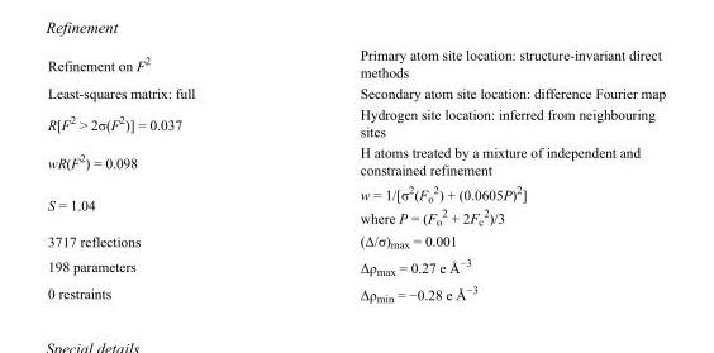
<table><tbody><tr><td>Refinement on F<sup>2</sup></td><td>Primary atom site location: structure-invariant direct methods</td></tr><tr><td>Least-squares matrix: full</td><td>Secondary atom site location: difference Fourier map</td></tr><tr><td>R[F<sup>2</sup> &gt; 2σ(F<sup>2</sup>)] = 0.037</td><td>Hydrogen site location: inferred from neighbouring sites</td></tr><tr><td>wR(F<sup>2</sup>) = 0.098</td><td>H atoms treated by a mixture of independent and constrained refinement</td></tr><tr><td>S = 1.04</td><td>w = 1/[σ<sup>2</sup>(F<sub>o</sub> <sup>2</sup>) + (0.0605P)<sup>2</sup>] where P = (F<sub>o</sub> <sup>2</sup> + 2F<sub>c</sub> <sup>2</sup>)/3</td></tr><tr><td>3717 reflections</td><td>(Δ/σ)<sub>max</sub> = 0.001</td></tr><tr><td>198 parameters</td><td>Δρ<sub>max</sub> = 0.27 e Å<sup>−3</sup></td></tr><tr><td>0 restraints</td><td>Δρ<sub>min</sub> = −0.28 e Å<sup>−3</sup></td></tr></tbody></table>